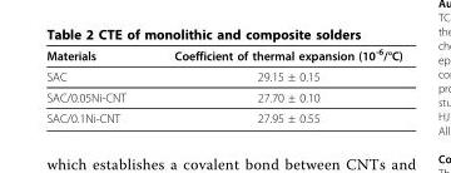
<table><thead><tr><td>Materials</td><td>Coefficient of thermal expansion (10<sup>-6</sup>/°C)</td></tr></thead><tbody><tr><td>SAC</td><td>29.15 ± 0.15</td></tr><tr><td>SAC/0.05Ni-CNT</td><td>27.70 ± 0.10</td></tr><tr><td>SAC/0.1Ni-CNT</td><td>27.95 ± 0.55</td></tr></tbody></table>